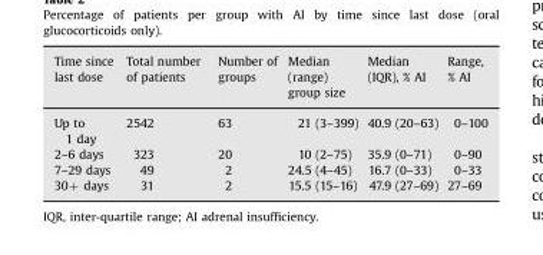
<table><thead><tr><td>Time since last dose</td><td>Total number of patients</td><td>Number of groups</td><td>Median (range) group size</td><td>Median (IQR), % AI</td><td>Range, % AI</td></tr></thead><tbody><tr><td>Up to 1 day</td><td>2542</td><td>63</td><td>21 (3–399)</td><td>40.9 (20–63)</td><td>0–100</td></tr><tr><td>2–6 days</td><td>323</td><td>20</td><td>10 (2–75)</td><td>35.9 (0–71)</td><td>0–90</td></tr><tr><td>7–29 days</td><td>49</td><td>2</td><td>24.5 (4–45)</td><td>16.7 (0–33)</td><td>0–33</td></tr><tr><td>30+ days</td><td>31</td><td>2</td><td>15.5 (15–16)</td><td>47.9 (27–69)</td><td>27–69</td></tr></tbody></table>